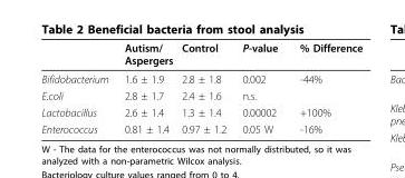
<table><thead><tr><td></td><td>Autism/ Aspergers</td><td>Control</td><td>P-value</td><td>% Difference</td></tr></thead><tbody><tr><td>Bifidobacterium</td><td>1.6 ± 1.9</td><td>2.8 ± 1.8</td><td>0.002</td><td>-44%</td></tr><tr><td>E.coli</td><td>2.8 ± 1.7</td><td>2.4 ± 1.6</td><td>n.s.</td><td></td></tr><tr><td>Lactobacillus</td><td>2.6 ± 1.4</td><td>1.3 ± 1.4</td><td>0.00002</td><td>+100%</td></tr><tr><td>Enterococcus</td><td>0.81 ± 1.4</td><td>0.97 ± 1.2</td><td>0.05 W</td><td>-16%</td></tr></tbody></table>